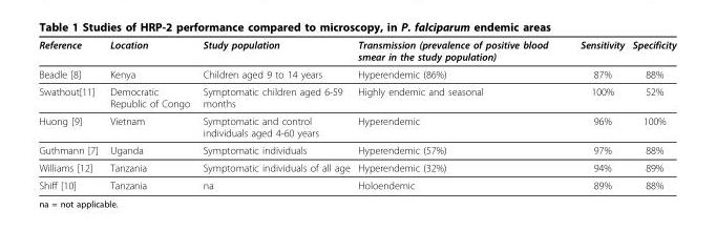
<table><thead><tr><td>Reference</td><td>Location</td><td>Study population</td><td>Transmission (prevalence of positive blood smear in the study population)</td><td>Sensitivity</td><td>Specificity</td></tr></thead><tbody><tr><td>Beadle [8]</td><td>Kenya</td><td>Children aged 9 to 14 years</td><td>Hyperendemic (86%)</td><td>87%</td><td>88%</td></tr><tr><td>Swathout[11]</td><td>Democratic Republic of Congo</td><td>Symptomatic children aged 6-59 months</td><td>Highly endemic and seasonal</td><td>100%</td><td>52%</td></tr><tr><td>Huong [9]</td><td>Vietnam</td><td>Symptomatic and control individuals aged 4-60 years</td><td>Hyperendemic</td><td>96%</td><td>100%</td></tr><tr><td>Guthmann [7]</td><td>Uganda</td><td>Symptomatic individuals</td><td>Hyperendemic (57%)</td><td>97%</td><td>88%</td></tr><tr><td>Williams [12]</td><td>Tanzania</td><td>Symptomatic individuals of all age</td><td>Hyperendemic (32%)</td><td>94%</td><td>89%</td></tr><tr><td>Shiff [10]</td><td>Tanzania</td><td>na</td><td>Holoendemic</td><td>89%</td><td>88%</td></tr></tbody></table>